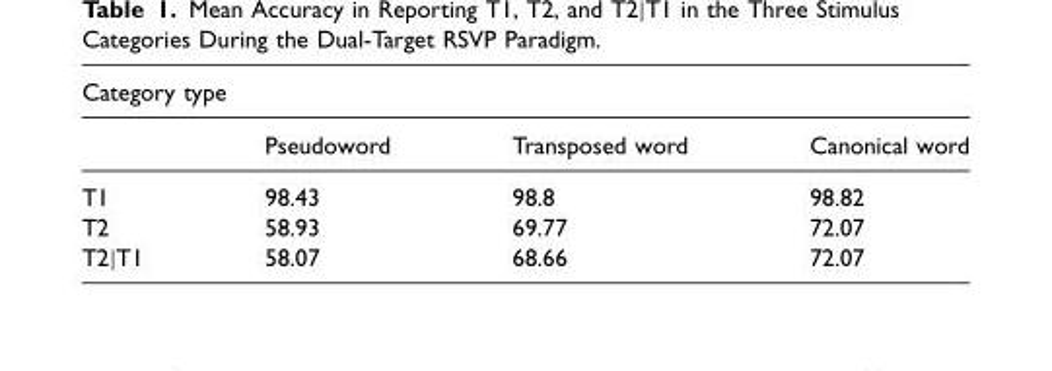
<table><thead><tr><td colspan="4">Category type</td></tr><tr><td></td><td>Pseudoword</td><td>Transposed word</td><td>Canonical word</td></tr></thead><tbody><tr><td>T1</td><td>98.43</td><td>98.8</td><td>98.82</td></tr><tr><td>T2</td><td>58.93</td><td>69.77</td><td>72.07</td></tr><tr><td>T2|T1</td><td>58.07</td><td>68.66</td><td>72.07</td></tr></tbody></table>